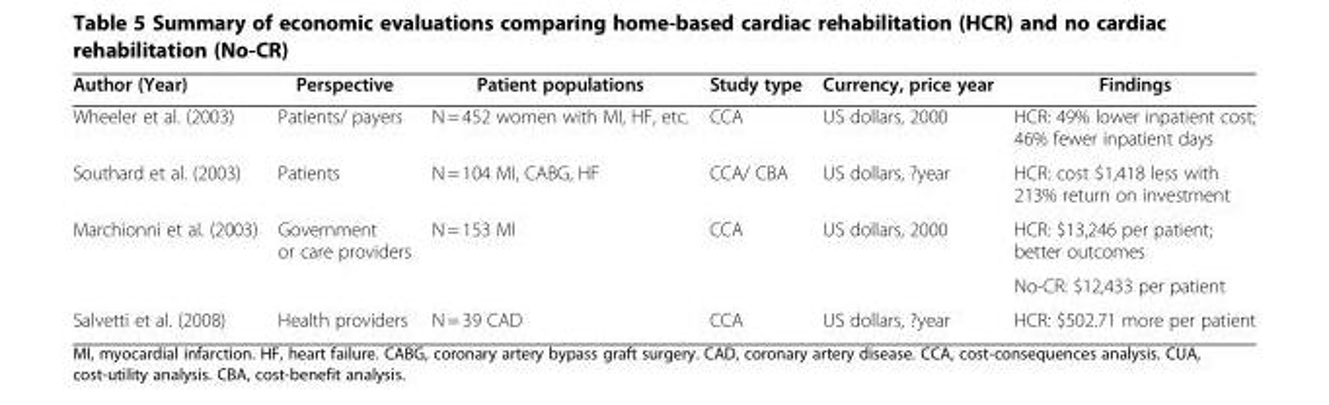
<table><thead><tr><td>Author (Year)</td><td>Perspective</td><td>Patient populations</td><td>Study type</td><td>Currency, price year</td><td>Findings</td></tr></thead><tbody><tr><td>Wheeler et al. (2003)</td><td>Patients/ payers</td><td>N = 452 women with MI, HF, etc.</td><td>CCA</td><td>US dollars, 2000</td><td>HCR: 49% lower inpatient cost; 46% fewer inpatient days</td></tr><tr><td>Southard et al. (2003)</td><td>Patients</td><td>N = 104 MI, CABG, HF</td><td>CCA/ CBA</td><td>US dollars, ?year</td><td>HCR: cost $1,418 less with 213% return on investment</td></tr><tr><td rowspan="2">Marchionni et al. (2003)</td><td>Government or care providers</td><td>N = 153 MI</td><td>CCA</td><td>US dollars, 2000</td><td>HCR: $13,246 per patient; better outcomes</td></tr><tr><td></td><td></td><td></td><td></td><td>No-CR: $12,433 per patient</td></tr><tr><td>Salvetti et al. (2008)</td><td>Health providers</td><td>N = 39 CAD</td><td>CCA</td><td>US dollars, ?year</td><td>HCR: $502.71 more per patient</td></tr></tbody></table>